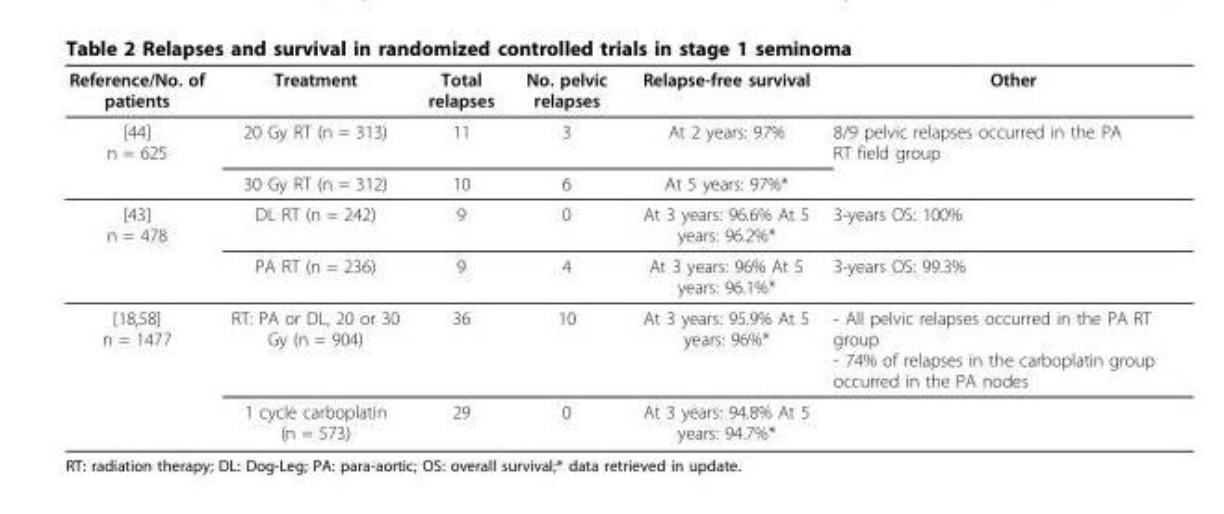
<table><thead><tr><td>Reference/No. of patients</td><td>Treatment</td><td>Total relapses</td><td>No. pelvic relapses</td><td>Relapse-free survival</td><td>Other</td></tr></thead><tbody><tr><td rowspan="2">[44] n = 625</td><td>20 Gy RT (n = 313)</td><td>11</td><td>3</td><td>At 2 years: 97%</td><td>8/9 pelvic relapses occurred in the PA RT field group</td></tr><tr><td>30 Gy RT (n = 312)</td><td>10</td><td>6</td><td>At 5 years: 97%*</td><td></td></tr><tr><td rowspan="2">[43] n = 478</td><td>DL RT (n = 242)</td><td>9</td><td>0</td><td>At 3 years: 96.6% At 5 years: 96.2%*</td><td>3-years OS: 100%</td></tr><tr><td>PA RT (n = 236)</td><td>9</td><td>4</td><td>At 3 years: 96% At 5 years: 96.1%*</td><td>3-years OS: 99.3%</td></tr><tr><td rowspan="2">[18,58] n = 1477</td><td>RT: PA or DL, 20 or 30 Gy (n = 904)</td><td>36</td><td>10</td><td>At 3 years: 95.9% At 5 years: 96%*</td><td>- All pelvic relapses occurred in the PA RT group - 74% of relapses in the carboplatin group occurred in the PA nodes</td></tr><tr><td>1 cycle carboplatin (n = 573)</td><td>29</td><td>0</td><td>At 3 years: 94.8% At 5 years: 94.7%*</td><td></td></tr></tbody></table>